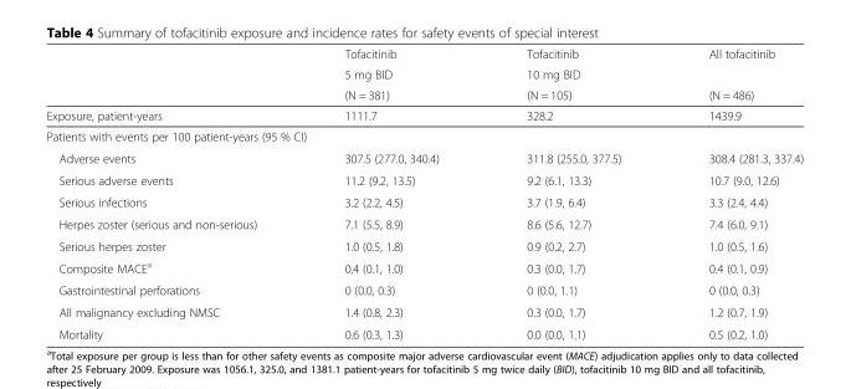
<table><thead><tr><td rowspan="3"></td><td rowspan="3">Tofacitinib 5 mg BID (N = 381)</td><td rowspan="3">Tofacitinib 10 mg BID (N = 105)</td><td rowspan="3">All tofacitinib (N = 486)</td></tr><tr></tr><tr></tr></thead><tbody><tr><td>Exposure, patient-years</td><td>1111.7</td><td>328.2</td><td>1439.9</td></tr><tr><td colspan="4">Patients with events per 100 patient-years (95 % CI)</td></tr><tr><td>Adverse events</td><td>307.5 (277.0, 340.4)</td><td>311.8 (255.0, 377.5)</td><td>308.4 (281.3, 337.4)</td></tr><tr><td>Serious adverse events</td><td>11.2 (9.2, 13.5)</td><td>9.2 (6.1, 13.3)</td><td>10.7 (9.0, 12.6)</td></tr><tr><td>Serious infections</td><td>3.2 (2.2, 4.5)</td><td>3.7 (1.9, 6.4)</td><td>3.3 (2.4, 4.4)</td></tr><tr><td>Herpes zoster (serious and non-serious)</td><td>7.1 (5.5, 8.9)</td><td>8.6 (5.6, 12.7)</td><td>7.4 (6.0, 9.1)</td></tr><tr><td>Serious herpes zoster</td><td>1.0 (0.5, 1.8)</td><td>0.9 (0.2, 2.7)</td><td>1.0 (0.5, 1.6)</td></tr><tr><td>Composite MACE<sup>a</sup></td><td>0.4 (0.1, 1.0)</td><td>0.3 (0.0, 1.7)</td><td>0.4 (0.1, 0.9)</td></tr><tr><td>Gastrointestinal perforations</td><td>0 (0.0, 0.3)</td><td>0 (0.0, 1.1)</td><td>0 (0.0, 0.3)</td></tr><tr><td>All malignancy excluding NMSC</td><td>1.4 (0.8, 2.3)</td><td>0.3 (0.0, 1.7)</td><td>1.2 (0.7, 1.9)</td></tr><tr><td>Mortality</td><td>0.6 (0.3, 1.3)</td><td>0.0 (0.0, 1.1)</td><td>0.5 (0.2, 1.0)</td></tr></tbody></table>